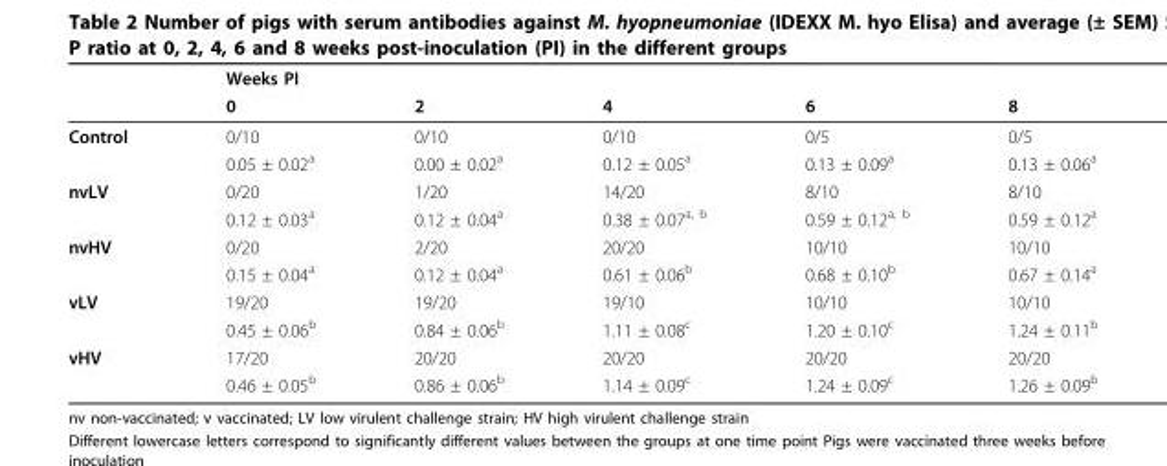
<table><thead><tr><td rowspan="2"></td><td colspan="5">Weeks PI</td></tr><tr><td>0</td><td>2</td><td>4</td><td>6</td><td>8</td></tr></thead><tbody><tr><td rowspan="2">Control</td><td>0/10</td><td>0/10</td><td>0/10</td><td>0/5</td><td>0/5</td></tr><tr><td>0.05 ± 0.02<sup>a</sup></td><td>0.00 ± 0.02<sup>a</sup></td><td>0.12 ± 0.05<sup>a</sup></td><td>0.13 ± 0.09<sup>a</sup></td><td>0.13 ± 0.06<sup>a</sup></td></tr><tr><td rowspan="2">nvLV</td><td>0/20</td><td>1/20</td><td>14/20</td><td>8/10</td><td>8/10</td></tr><tr><td>0.12 ± 0.03<sup>a</sup></td><td>0.12 ± 0.04<sup>a</sup></td><td>0.38 ± 0.07<sup>a, b</sup></td><td>0.59 ± 0.12<sup>a, b</sup></td><td>0.59 ± 0.12<sup>a</sup></td></tr><tr><td rowspan="2">nvHV</td><td>0/20</td><td>2/20</td><td>20/20</td><td>10/10</td><td>10/10</td></tr><tr><td>0.15 ± 0.04<sup>a</sup></td><td>0.12 ± 0.04<sup>a</sup></td><td>0.61 ± 0.06<sup>b</sup></td><td>0.68 ± 0.10<sup>b</sup></td><td>0.67 ± 0.14<sup>a</sup></td></tr><tr><td rowspan="2">vLV</td><td>19/20</td><td>19/20</td><td>19/10</td><td>10/10</td><td>10/10</td></tr><tr><td>0.45 ± 0.06<sup>b</sup></td><td>0.84 ± 0.06<sup>b</sup></td><td>1.11 ± 0.08<sup>c</sup></td><td>1.20 ± 0.10<sup>c</sup></td><td>1.24 ± 0.11<sup>b</sup></td></tr><tr><td rowspan="2">vHV</td><td>17/20</td><td>20/20</td><td>20/20</td><td>20/20</td><td>20/20</td></tr><tr><td>0.46 ± 0.05<sup>b</sup></td><td>0.86 ± 0.06<sup>b</sup></td><td>1.14 ± 0.09<sup>c</sup></td><td>1.24 ± 0.09<sup>c</sup></td><td>1.26 ± 0.09<sup>b</sup></td></tr></tbody></table>